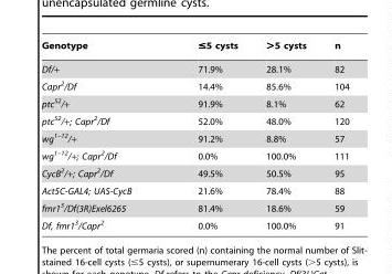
<table><thead><tr><td>Genotype</td><td>≤5 cysts</td><td>&gt;5 cysts</td><td>n</td></tr></thead><tbody><tr><td>Df/+</td><td>71.9%</td><td>28.1%</td><td>82</td></tr><tr><td>Capr<sup>2</sup>/Df</td><td>14.4%</td><td>85.6%</td><td>104</td></tr><tr><td>ptc<sup>S2</sup>/+</td><td>91.9%</td><td>8.1%</td><td>62</td></tr><tr><td>ptc<sup>S2</sup>/+; Capr<sup>2</sup>/Df</td><td>52.0%</td><td>48.0%</td><td>120</td></tr><tr><td>wg<sup>1–12</sup>/+</td><td>91.2%</td><td>8.8%</td><td>57</td></tr><tr><td>wg<sup>1–12</sup>/+; Capr<sup>2</sup>/Df</td><td>0.0%</td><td>100.0%</td><td>111</td></tr><tr><td>CycB<sup>2</sup>/+; Capr<sup>2</sup>/Df</td><td>49.5%</td><td>50.5%</td><td>95</td></tr><tr><td>Act5C-GAL4; UAS-CycB</td><td>21.6%</td><td>78.4%</td><td>88</td></tr><tr><td>fmr1<sup>3</sup>/Df(3R)Exel6265</td><td>81.4%</td><td>18.6%</td><td>59</td></tr><tr><td>Df, fmr1<sup>3</sup>/Capr<sup>2</sup></td><td>0.0%</td><td>100.0%</td><td>91</td></tr></tbody></table>